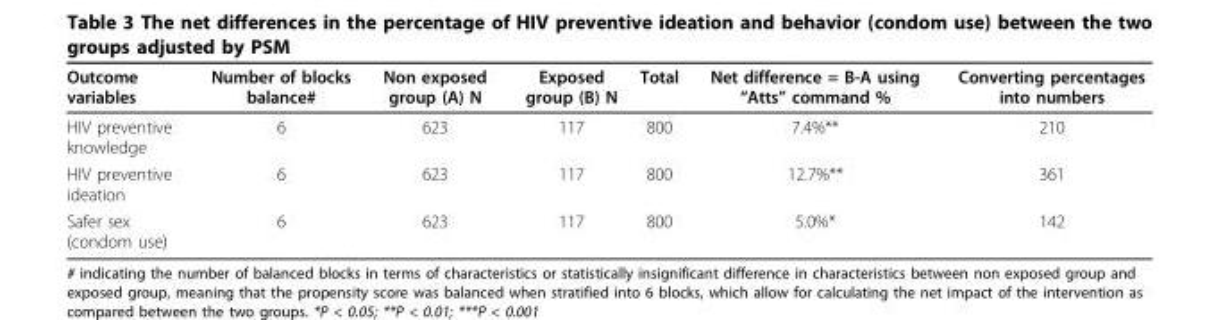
<table><thead><tr><td>Outcome variables</td><td>Number of blocks balance#</td><td>Non exposed group (A) N</td><td>Exposed group (B) N</td><td>Total</td><td>Net difference = B-A using “Atts” command %</td><td>Converting percentages into numbers</td></tr></thead><tbody><tr><td>HIV preventive knowledge</td><td>6</td><td>623</td><td>117</td><td>800</td><td>7.4%**</td><td>210</td></tr><tr><td>HIV preventive ideation</td><td>6</td><td>623</td><td>117</td><td>800</td><td>12.7%**</td><td>361</td></tr><tr><td>Safer sex (condom use)</td><td>6</td><td>623</td><td>117</td><td>800</td><td>5.0%*</td><td>142</td></tr></tbody></table>